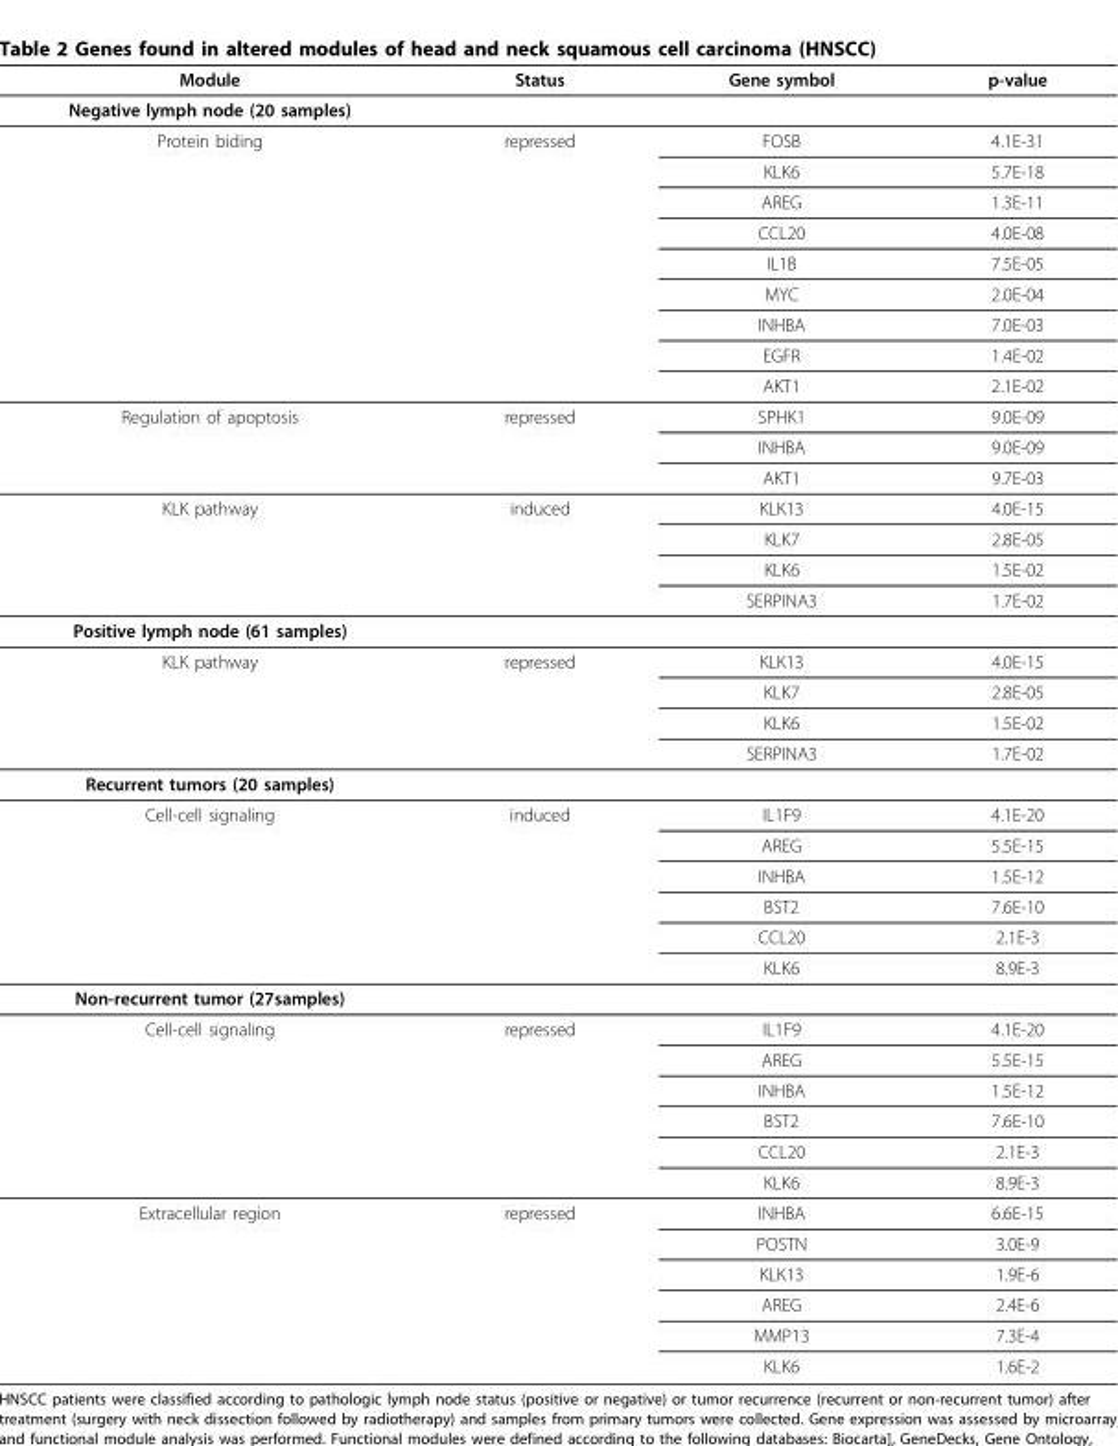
<table><thead><tr><td>Module</td><td>Status</td><td>Gene symbol</td><td>p-value</td></tr></thead><tbody><tr><td colspan="4">Negative lymph node (20 samples)</td></tr><tr><td rowspan="9">Protein biding</td><td>repressed</td><td>FOSB</td><td>4.1E-31</td></tr><tr><td></td><td>KLK6</td><td>5.7E-18</td></tr><tr><td></td><td>AREG</td><td>1.3E-11</td></tr><tr><td></td><td>CCL20</td><td>4.0E-08</td></tr><tr><td></td><td>IL1B</td><td>7.5E-05</td></tr><tr><td></td><td>MYC</td><td>2.0E-04</td></tr><tr><td></td><td>INHBA</td><td>7.0E-03</td></tr><tr><td></td><td>EGFR</td><td>1.4E-02</td></tr><tr><td></td><td>AKT1</td><td>2.1E-02</td></tr><tr><td rowspan="3">Regulation of apoptosis</td><td>repressed</td><td>SPHK1</td><td>9.0E-09</td></tr><tr><td></td><td>INHBA</td><td>9.0E-09</td></tr><tr><td></td><td>AKT1</td><td>9.7E-03</td></tr><tr><td rowspan="4">KLK pathway</td><td>induced</td><td>KLK13</td><td>4.0E-15</td></tr><tr><td></td><td>KLK7</td><td>2.8E-05</td></tr><tr><td></td><td>KLK6</td><td>1.5E-02</td></tr><tr><td></td><td>SERPINA3</td><td>1.7E-02</td></tr><tr><td colspan="4">Positive lymph node (61 samples)</td></tr><tr><td rowspan="4">KLK pathway</td><td>repressed</td><td>KLK13</td><td>4.0E-15</td></tr><tr><td></td><td>KLK7</td><td>2.8E-05</td></tr><tr><td></td><td>KLK6</td><td>1.5E-02</td></tr><tr><td></td><td>SERPINA3</td><td>1.7E-02</td></tr><tr><td colspan="4">Recurrent tumors (20 samples)</td></tr><tr><td rowspan="6">Cell-cell signaling</td><td>induced</td><td>IL1F9</td><td>4.1E-20</td></tr><tr><td></td><td>AREG</td><td>5.5E-15</td></tr><tr><td></td><td>INHBA</td><td>1.5E-12</td></tr><tr><td></td><td>BST2</td><td>7.6E-10</td></tr><tr><td></td><td>CCL20</td><td>2.1E-3</td></tr><tr><td></td><td>KLK6</td><td>8.9E-3</td></tr><tr><td colspan="4">Non-recurrent tumor (27samples)</td></tr><tr><td rowspan="6">Cell-cell signaling</td><td>repressed</td><td>IL1F9</td><td>4.1E-20</td></tr><tr><td></td><td>AREG</td><td>5.5E-15</td></tr><tr><td></td><td>INHBA</td><td>1.5E-12</td></tr><tr><td></td><td>BST2</td><td>7.6E-10</td></tr><tr><td></td><td>CCL20</td><td>2.1E-3</td></tr><tr><td></td><td>KLK6</td><td>8.9E-3</td></tr><tr><td rowspan="6">Extracellular region</td><td>repressed</td><td>INHBA</td><td>6.6E-15</td></tr><tr><td></td><td>POSTN</td><td>3.0E-9</td></tr><tr><td></td><td>KLK13</td><td>1.9E-6</td></tr><tr><td></td><td>AREG</td><td>2.4E-6</td></tr><tr><td></td><td>MMP13</td><td>7.3E-4</td></tr><tr><td></td><td>KLK6</td><td>1.6E-2</td></tr></tbody></table>